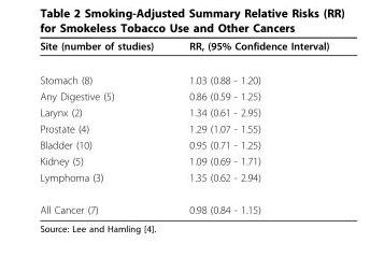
<table><thead><tr><td>Site (number of studies)</td><td>RR, (95% Confidence Interval)</td></tr></thead><tbody><tr><td>Stomach (8)</td><td>1.03 (0.88 - 1.20)</td></tr><tr><td>Any Digestive (5)</td><td>0.86 (0.59 - 1.25)</td></tr><tr><td>Larynx (2)</td><td>1.34 (0.61 - 2.95)</td></tr><tr><td>Prostate (4)</td><td>1.29 (1.07 - 1.55)</td></tr><tr><td>Bladder (10)</td><td>0.95 (0.71 - 1.25)</td></tr><tr><td>Kidney (5)</td><td>1.09 (0.69 - 1.71)</td></tr><tr><td>Lymphoma (3)</td><td>1.35 (0.62 - 2.94)</td></tr><tr><td>All Cancer (7)</td><td>0.98 (0.84 - 1.15)</td></tr></tbody></table>